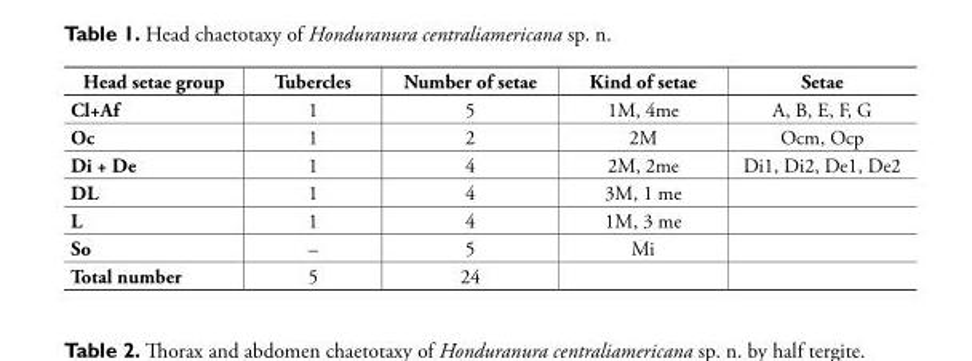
<table><thead><tr><td>Head setae group</td><td>Tubercles</td><td>Number of setae</td><td>Kind of setae</td><td>Setae</td></tr></thead><tbody><tr><td>Cl+Af</td><td>1</td><td>5</td><td>1M, 4me</td><td>A, B, E, F, G</td></tr><tr><td>Oc</td><td>1</td><td>2</td><td>2M</td><td>Ocm, Ocp</td></tr><tr><td>Di + De</td><td>1</td><td>4</td><td>2M, 2me</td><td>Di1, Di2, De1, De2</td></tr><tr><td>DL</td><td>1</td><td>4</td><td>3M, 1 me</td><td></td></tr><tr><td>L</td><td>1</td><td>4</td><td>1M, 3 me</td><td></td></tr><tr><td>So</td><td>–</td><td>5</td><td>Mi</td><td></td></tr><tr><td>Total number</td><td>5</td><td>24</td><td></td><td></td></tr></tbody></table>